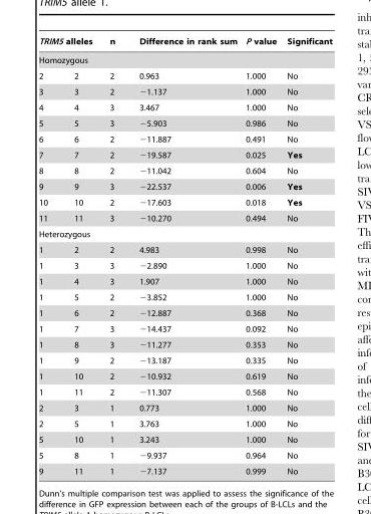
<table><thead><tr><td colspan="2">TRIM5 alleles</td><td>n</td><td>Difference in rank sum</td><td>P value</td><td>Significant</td></tr><tr><td colspan="6">Homozygous</td></tr><tr><td>2</td><td>2</td><td>2</td><td>0.963</td><td>1.000</td><td>No</td></tr></thead><tbody><tr><td>3</td><td>3</td><td>2</td><td>−1.137</td><td>1.000</td><td>No</td></tr><tr><td>4</td><td>4</td><td>3</td><td>3.467</td><td>1.000</td><td>No</td></tr><tr><td>5</td><td>5</td><td>3</td><td>−5.903</td><td>0.986</td><td>No</td></tr><tr><td>6</td><td>6</td><td>2</td><td>−11.887</td><td>0.491</td><td>No</td></tr><tr><td>7</td><td>7</td><td>2</td><td>−19.587</td><td>0.025</td><td>Yes</td></tr><tr><td>8</td><td>8</td><td>2</td><td>−11.042</td><td>0.604</td><td>No</td></tr><tr><td>9</td><td>9</td><td>3</td><td>−22.537</td><td>0.006</td><td>Yes</td></tr><tr><td>10</td><td>10</td><td>2</td><td>−17.603</td><td>0.018</td><td>Yes</td></tr><tr><td>11</td><td>11</td><td>3</td><td>−10.270</td><td>0.494</td><td>No</td></tr><tr><td colspan="6">Heterozygous</td></tr><tr><td>1</td><td>2</td><td>2</td><td>4.983</td><td>0.998</td><td>No</td></tr><tr><td>1</td><td>3</td><td>3</td><td>−2.890</td><td>1.000</td><td>No</td></tr><tr><td>1</td><td>4</td><td>3</td><td>1.907</td><td>1.000</td><td>No</td></tr><tr><td>1</td><td>5</td><td>2</td><td>−3.852</td><td>1.000</td><td>No</td></tr><tr><td>1</td><td>6</td><td>2</td><td>−12.887</td><td>0.368</td><td>No</td></tr><tr><td>1</td><td>7</td><td>3</td><td>−14.437</td><td>0.092</td><td>No</td></tr><tr><td>1</td><td>8</td><td>3</td><td>−11.277</td><td>0.353</td><td>No</td></tr><tr><td>1</td><td>9</td><td>2</td><td>−13.187</td><td>0.335</td><td>No</td></tr><tr><td>1</td><td>10</td><td>2</td><td>−10.932</td><td>0.619</td><td>No</td></tr><tr><td>1</td><td>11</td><td>2</td><td>−11.307</td><td>0.568</td><td>No</td></tr><tr><td>2</td><td>3</td><td>1</td><td>0.773</td><td>1.000</td><td>No</td></tr><tr><td>2</td><td>5</td><td>1</td><td>3.763</td><td>1.000</td><td>No</td></tr><tr><td>5</td><td>10</td><td>1</td><td>3.243</td><td>1.000</td><td>No</td></tr><tr><td>5</td><td>8</td><td>1</td><td>−9.937</td><td>0.964</td><td>No</td></tr><tr><td>9</td><td>11</td><td>1</td><td>−7.137</td><td>0.999</td><td>No</td></tr></tbody></table>